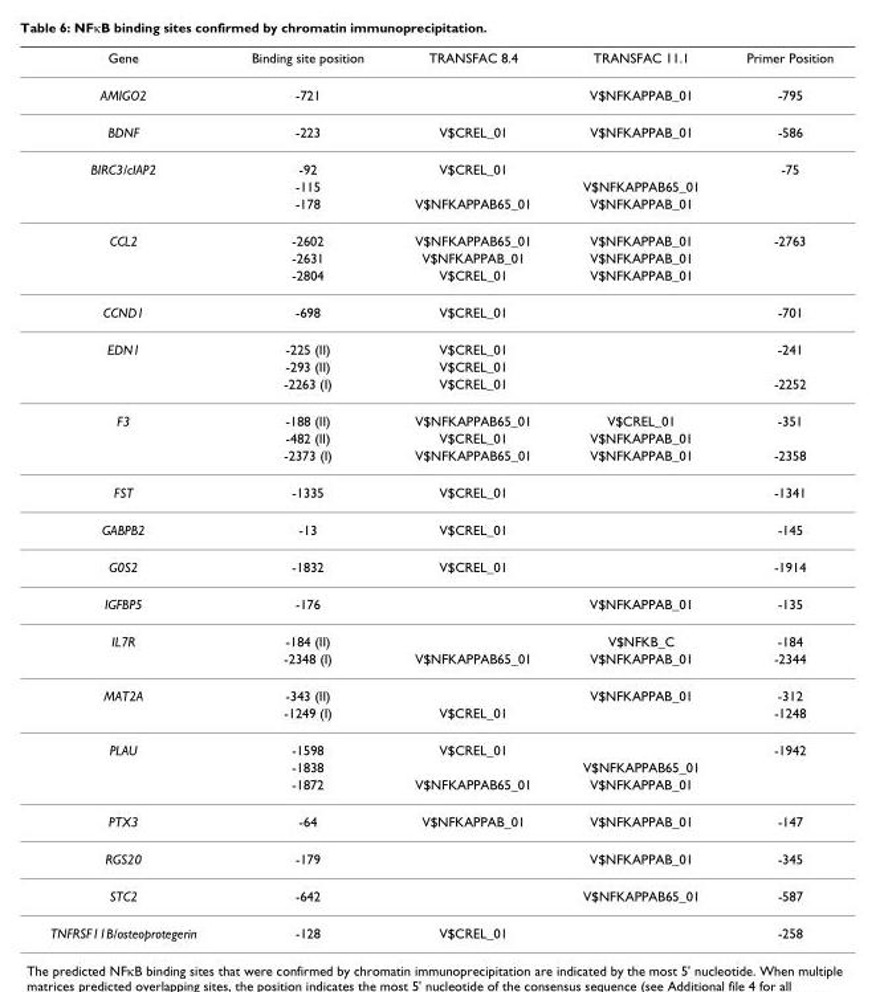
<table><thead><tr><td>Gene</td><td>Binding site position</td><td>TRANSFAC 8.4</td><td>TRANSFAC 11.1</td><td>Primer Position</td></tr></thead><tbody><tr><td>AMIGO2</td><td>-721</td><td></td><td>V$NFKAPPAB_01</td><td>-795</td></tr><tr><td>BDNF</td><td>-223</td><td>V$CREL_01</td><td>V$NFKAPPAB_01</td><td>-586</td></tr><tr><td rowspan="3">BIRC3/cIAP2</td><td>-92</td><td>V$CREL_01</td><td></td><td>-75</td></tr><tr><td>-115</td><td></td><td>V$NFKAPPAB65_01</td><td></td></tr><tr><td>-178</td><td>V$NFKAPPAB65_01</td><td>V$NFKAPPAB_01</td><td></td></tr><tr><td rowspan="3">CCL2</td><td>-2602</td><td>V$NFKAPPAB65_01</td><td>V$NFKAPPAB_01</td><td>-2763</td></tr><tr><td>-2631</td><td>V$NFKAPPAB_01</td><td>V$NFKAPPAB_01</td><td></td></tr><tr><td>-2804</td><td>V$CREL_01</td><td>V$NFKAPPAB_01</td><td></td></tr><tr><td>CCND1</td><td>-698</td><td>V$CREL_01</td><td></td><td>-701</td></tr><tr><td rowspan="3">EDN1</td><td>-225 (II)</td><td>V$CREL_01</td><td></td><td>-241</td></tr><tr><td>-293 (II)</td><td>V$CREL_01</td><td></td><td></td></tr><tr><td>-2263 (I)</td><td>V$CREL_01</td><td></td><td>-2252</td></tr><tr><td rowspan="3">F3</td><td>-188 (II)</td><td>V$NFKAPPAB65_01</td><td>V$CREL_01</td><td>-351</td></tr><tr><td>-482 (II)</td><td>V$CREL_01</td><td>V$NFKAPPAB_01</td><td></td></tr><tr><td>-2373 (I)</td><td>V$NFKAPPAB65_01</td><td>V$NFKAPPAB_01</td><td>-2358</td></tr><tr><td>FST</td><td>-1335</td><td>V$CREL_01</td><td></td><td>-1341</td></tr><tr><td>GABPB2</td><td>-13</td><td>V$CREL_01</td><td></td><td>-145</td></tr><tr><td>G0S2</td><td>-1832</td><td>V$CREL_01</td><td></td><td>-1914</td></tr><tr><td>IGFBP5</td><td>-176</td><td></td><td>V$NFKAPPAB_01</td><td>-135</td></tr><tr><td rowspan="2">IL7R</td><td>-184 (II)</td><td></td><td>V$NFKB_C</td><td>-184</td></tr><tr><td>-2348 (I)</td><td>V$NFKAPPAB65_01</td><td>V$NFKAPPAB_01</td><td>-2344</td></tr><tr><td rowspan="2">MAT2A</td><td>-343 (II)</td><td></td><td>V$NFKAPPAB_01</td><td>-312</td></tr><tr><td>-1249 (I)</td><td>V$CREL_01</td><td></td><td>-1248</td></tr><tr><td rowspan="3">PLAU</td><td>-1598</td><td>V$CREL_01</td><td></td><td>-1942</td></tr><tr><td>-1838</td><td></td><td>V$NFKAPPAB65_01</td><td></td></tr><tr><td>-1872</td><td>V$NFKAPPAB65_01</td><td>V$NFKAPPAB_01</td><td></td></tr><tr><td>PTX3</td><td>-64</td><td>V$NFKAPPAB_01</td><td>V$NFKAPPAB_01</td><td>-147</td></tr><tr><td>RGS20</td><td>-179</td><td></td><td>V$NFKAPPAB_01</td><td>-345</td></tr><tr><td>STC2</td><td>-642</td><td></td><td>V$NFKAPPAB65_01</td><td>-587</td></tr><tr><td>TNFRSF11B/osteoprotegerin</td><td>-128</td><td>V$CREL_01</td><td></td><td>-258</td></tr></tbody></table>